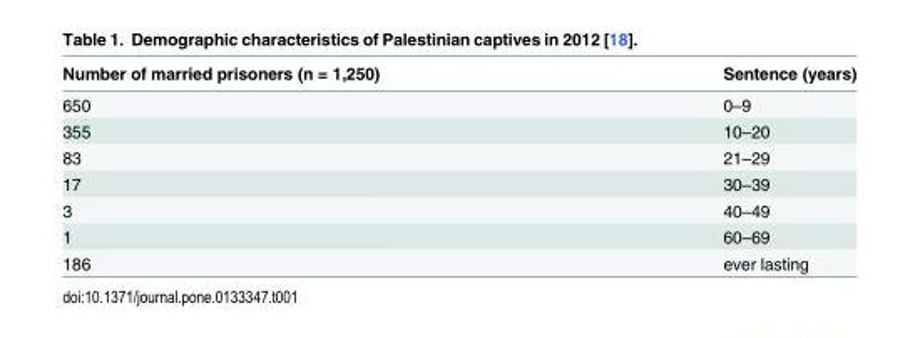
<table><thead><tr><td>Number of married prisoners (n = 1,250)</td><td>Sentence (years)</td></tr></thead><tbody><tr><td>650</td><td>0–9</td></tr><tr><td>355</td><td>10–20</td></tr><tr><td>83</td><td>21–29</td></tr><tr><td>17</td><td>30–39</td></tr><tr><td>3</td><td>40–49</td></tr><tr><td>1</td><td>60–69</td></tr><tr><td>186</td><td>ever lasting</td></tr></tbody></table>